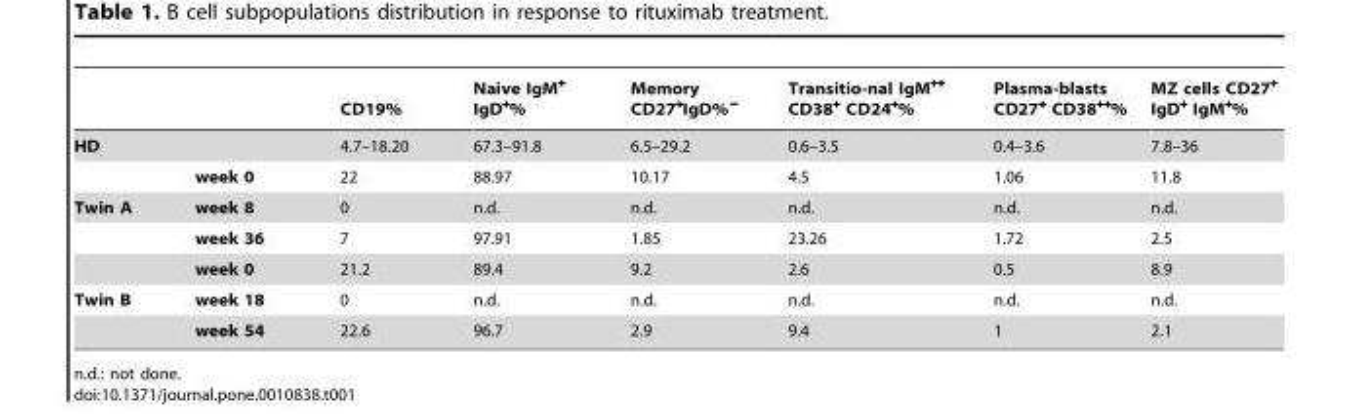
<table><thead><tr><td></td><td></td><td>CD19%</td><td>Naive IgM<sup>+</sup> IgD<sup>+</sup>%</td><td>Memory CD27<sup>+</sup>IgD%<sup>−</sup></td><td>Transitio-nal IgM<sup>++</sup> CD38<sup>+</sup> CD24<sup>+</sup>%</td><td>Plasma-blasts CD27<sup>+</sup> CD38<sup>++</sup>%</td><td>MZ cells CD27<sup>+</sup> IgD<sup>+</sup> IgM<sup>+</sup>%</td></tr></thead><tbody><tr><td colspan="2">HD</td><td>4.7–18.20</td><td>67.3–91.8</td><td>6.5–29.2</td><td>0.6–3.5</td><td>0.4–3.6</td><td>7.8–36</td></tr><tr><td></td><td>week 0</td><td>22</td><td>88.97</td><td>10.17</td><td>4.5</td><td>1.06</td><td>11.8</td></tr><tr><td rowspan="3">Twin A</td><td>week 8</td><td>0</td><td>n.d.</td><td>n.d.</td><td>n.d.</td><td>n.d.</td><td>n.d.</td></tr><tr><td>week 36</td><td>7</td><td>97.91</td><td>1.85</td><td>23.26</td><td>1.72</td><td>2.5</td></tr><tr><td>week 0</td><td>21.2</td><td>89.4</td><td>9.2</td><td>2.6</td><td>0.5</td><td>8.9</td></tr><tr><td rowspan="2">Twin B</td><td>week 18</td><td>0</td><td>n.d.</td><td>n.d.</td><td>n.d.</td><td>n.d.</td><td>n.d.</td></tr><tr><td>week 54</td><td>22.6</td><td>96.7</td><td>2.9</td><td>9.4</td><td>1</td><td>2.1</td></tr></tbody></table>